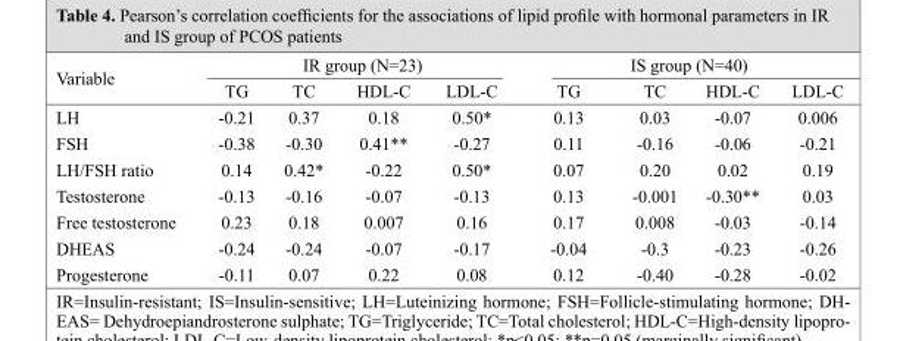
<table><thead><tr><td rowspan="2">Variable</td><td colspan="4">IR group (N=23)</td><td colspan="4">IS group (N=40)</td></tr><tr><td>TG</td><td>TC</td><td>HDL-C</td><td>LDL-C</td><td>TG</td><td>TC</td><td>HDL-C</td><td>LDL-C</td></tr></thead><tbody><tr><td>LH</td><td>-0.21</td><td>0.37</td><td>0.18</td><td>0.50*</td><td>0.13</td><td>0.03</td><td>-0.07</td><td>0.006</td></tr><tr><td>FSH</td><td>-0.38</td><td>-0.30</td><td>0.41**</td><td>-0.27</td><td>0.11</td><td>-0.16</td><td>-0.06</td><td>-0.21</td></tr><tr><td>LH/FSH ratio</td><td>0.14</td><td>0.42*</td><td>-0.22</td><td>0.50*</td><td>0.07</td><td>0.20</td><td>0.02</td><td>0.19</td></tr><tr><td>Testosterone</td><td>-0.13</td><td>-0.16</td><td>-0.07</td><td>-0.13</td><td>0.13</td><td>-0.001</td><td>-0.30**</td><td>0.03</td></tr><tr><td>Free testosterone</td><td>0.23</td><td>0.18</td><td>0.007</td><td>0.16</td><td>0.17</td><td>0.008</td><td>-0.03</td><td>-0.14</td></tr><tr><td>DHEAS</td><td>-0.24</td><td>-0.24</td><td>-0.07</td><td>-0.17</td><td>-0.04</td><td>-0.3</td><td>-0.23</td><td>-0.26</td></tr><tr><td>Progesterone</td><td>-0.11</td><td>0.07</td><td>0.22</td><td>0.08</td><td>0.12</td><td>-0.40</td><td>-0.28</td><td>-0.02</td></tr></tbody></table>